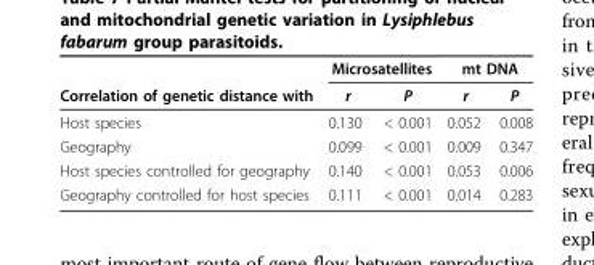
<table><thead><tr><td rowspan="2">Correlation of genetic distance with</td><td colspan="2">Microsatellites</td><td colspan="2">mt DNA</td></tr><tr><td>r</td><td>P</td><td>r</td><td>P</td></tr></thead><tbody><tr><td>Host species</td><td>0.130</td><td>&lt; 0.001</td><td>0.052</td><td>0.008</td></tr><tr><td>Geography</td><td>0.099</td><td>&lt; 0.001</td><td>0.009</td><td>0.347</td></tr><tr><td>Host species controlled for geography</td><td>0.140</td><td>&lt; 0.001</td><td>0.053</td><td>0.006</td></tr><tr><td>Geography controlled for host species</td><td>0.111</td><td>&lt; 0.001</td><td>0.014</td><td>0.283</td></tr></tbody></table>